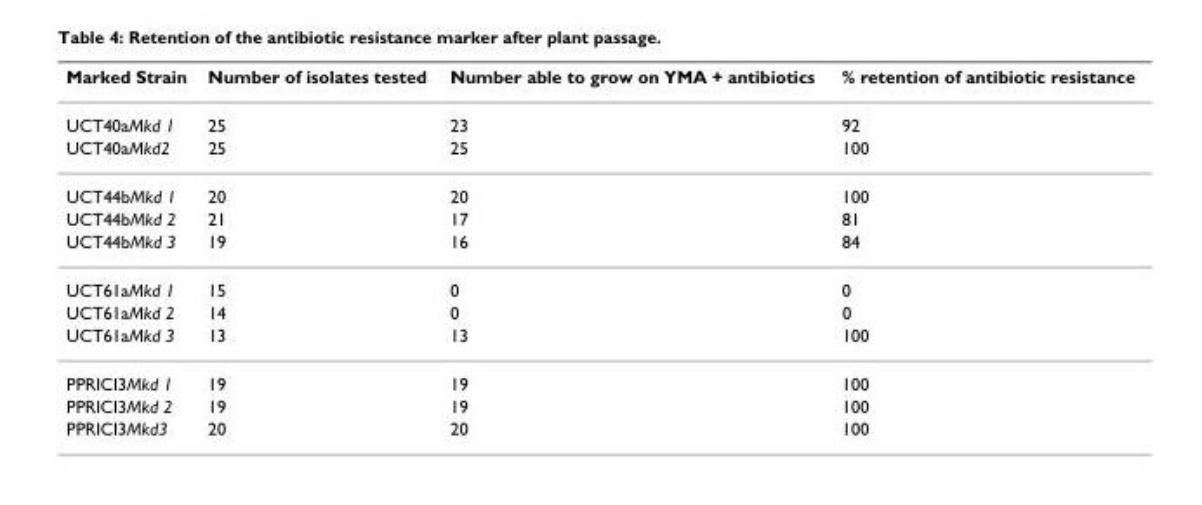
<table><thead><tr><td>Marked Strain</td><td>Number of isolates tested</td><td>Number able to grow on YMA + antibiotics</td><td>% retention of antibiotic resistance</td></tr></thead><tbody><tr><td>UCT40aMkd 1</td><td>25</td><td>23</td><td>92</td></tr><tr><td>UCT40aMkd2</td><td>25</td><td>25</td><td>100</td></tr><tr><td>UCT44bMkd 1</td><td>20</td><td>20</td><td>100</td></tr><tr><td>UCT44bMkd 2</td><td>21</td><td>17</td><td>81</td></tr><tr><td>UCT44bMkd 3</td><td>19</td><td>16</td><td>84</td></tr><tr><td>UCT61aMkd 1</td><td>15</td><td>0</td><td>0</td></tr><tr><td>UCT61aMkd 2</td><td>14</td><td>0</td><td>0</td></tr><tr><td>UCT61aMkd 3</td><td>13</td><td>13</td><td>100</td></tr><tr><td>PPRICI3Mkd 1</td><td>19</td><td>19</td><td>100</td></tr><tr><td>PPRICI3Mkd 2</td><td>19</td><td>19</td><td>100</td></tr><tr><td>PPRICI3Mkd3</td><td>20</td><td>20</td><td>100</td></tr></tbody></table>